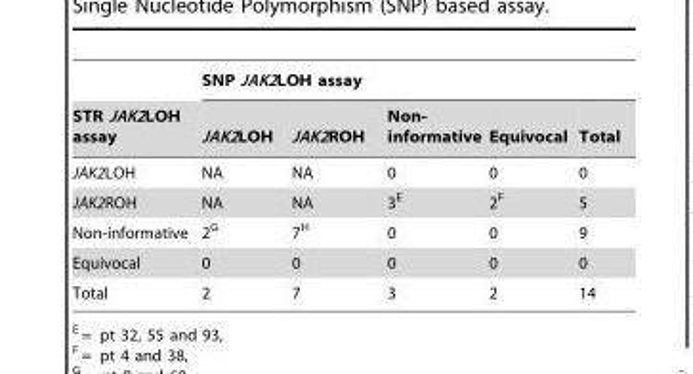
<table><thead><tr><td rowspan="2">STR JAK2LOH assay</td><td colspan="5">SNP JAK2LOH assay</td></tr><tr><td>JAK2LOH</td><td>JAK2ROH</td><td>Non- informative</td><td>Equivocal</td><td>Total</td></tr></thead><tbody><tr><td>JAK2LOH</td><td>NA</td><td>NA</td><td>0</td><td>0</td><td>0</td></tr><tr><td>JAK2ROH</td><td>NA</td><td>NA</td><td>3<sup>E</sup></td><td>2<sup>F</sup></td><td>5</td></tr><tr><td>Non-informative</td><td>2<sup>G</sup></td><td>7<sup>H</sup></td><td>0</td><td>0</td><td>9</td></tr><tr><td>Equivocal</td><td>0</td><td>0</td><td>0</td><td>0</td><td>0</td></tr><tr><td>Total</td><td>2</td><td>7</td><td>3</td><td>2</td><td>14</td></tr></tbody></table>